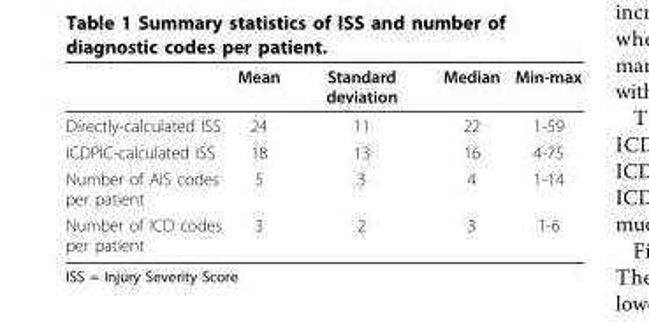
<table><thead><tr><td></td><td>Mean</td><td>Standard deviation</td><td>Median</td><td>Min-max</td></tr></thead><tbody><tr><td>Directly-calculated ISS</td><td>24</td><td>11</td><td>22</td><td>1-59</td></tr><tr><td>ICDPIC-calculated ISS</td><td>18</td><td>13</td><td>16</td><td>4-75</td></tr><tr><td>Number of AIS codes per patient</td><td>5</td><td>3</td><td>4</td><td>1-14</td></tr><tr><td>Number of ICD codes per patient</td><td>3</td><td>2</td><td>3</td><td>1-6</td></tr></tbody></table>